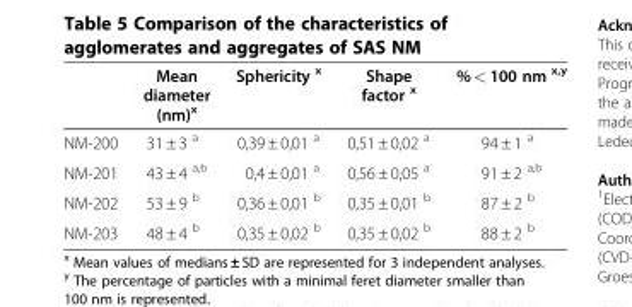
<table><thead><tr><td></td><td>Mean diameter (nm)<sup>x</sup></td><td>Sphericity <sup>x</sup></td><td>Shape factor <sup>x</sup></td><td>% &lt; 100 nm <sup>x,y</sup></td></tr></thead><tbody><tr><td>NM-200</td><td>31 ± 3 <sup>a</sup></td><td>0,39 ± 0,01 <sup>a</sup></td><td>0,51 ± 0,02 <sup>a</sup></td><td>94 ± 1 <sup>a</sup></td></tr><tr><td>NM-201</td><td>43 ± 4 <sup>a,b</sup></td><td>0,4 ± 0,01 <sup>a</sup></td><td>0,56 ± 0,05 <sup>a</sup></td><td>91 ± 2 <sup>a,b</sup></td></tr><tr><td>NM-202</td><td>53 ± 9 <sup>b</sup></td><td>0,36 ± 0,01 <sup>b</sup></td><td>0,35 ± 0,01 <sup>b</sup></td><td>87 ± 2 <sup>b</sup></td></tr><tr><td>NM-203</td><td>48 ± 4 <sup>b</sup></td><td>0,35 ± 0,02 <sup>b</sup></td><td>0,35 ± 0,02 <sup>b</sup></td><td>88 ± 2 <sup>b</sup></td></tr></tbody></table>